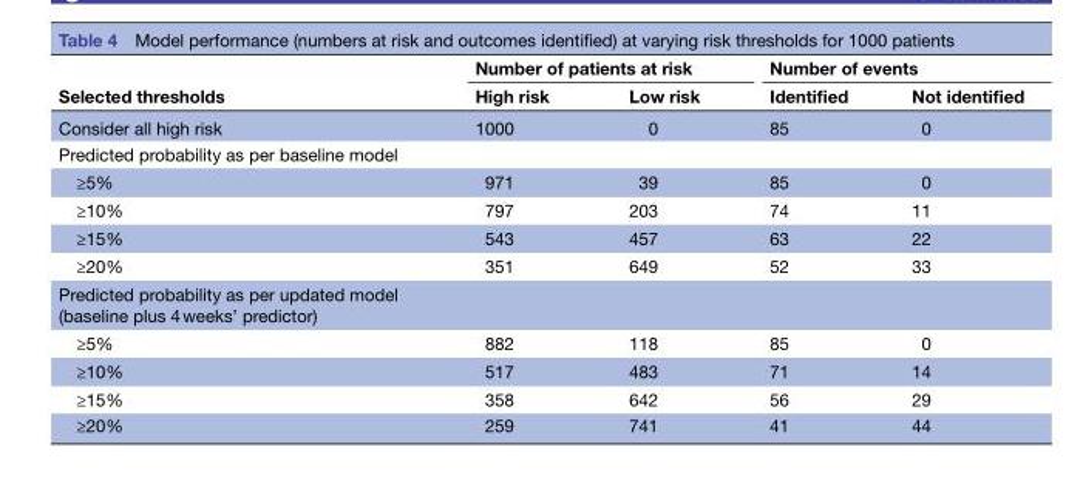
<table><thead><tr><td rowspan="2">Selected thresholds</td><td colspan="2">Number of patients at risk</td><td colspan="2">Number of events</td></tr><tr><td>High risk</td><td>Low risk</td><td>Identified</td><td>Not identified</td></tr></thead><tbody><tr><td>Consider all high risk</td><td>1000</td><td>0</td><td>85</td><td>0</td></tr><tr><td colspan="5">Predicted probability as per baseline model</td></tr><tr><td>≥5%</td><td>971</td><td>39</td><td>85</td><td>0</td></tr><tr><td>≥10%</td><td>797</td><td>203</td><td>74</td><td>11</td></tr><tr><td>≥15%</td><td>543</td><td>457</td><td>63</td><td>22</td></tr><tr><td>≥20%</td><td>351</td><td>649</td><td>52</td><td>33</td></tr><tr><td colspan="5">Predicted probability as per updated model (baseline plus 4 weeks’ predictor)</td></tr><tr><td>≥5%</td><td>882</td><td>118</td><td>85</td><td>0</td></tr><tr><td>≥10%</td><td>517</td><td>483</td><td>71</td><td>14</td></tr><tr><td>≥15%</td><td>358</td><td>642</td><td>56</td><td>29</td></tr><tr><td>≥20%</td><td>259</td><td>741</td><td>41</td><td>44</td></tr></tbody></table>